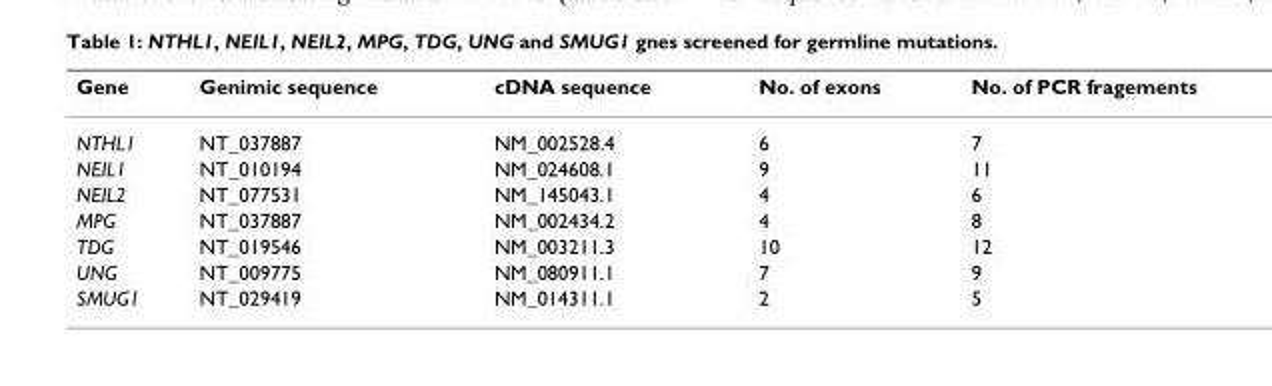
<table><thead><tr><td>Gene</td><td>Genimic sequence</td><td>cDNA sequence</td><td>No. of exons</td><td>No. of PCR fragements</td></tr></thead><tbody><tr><td>NTHL1</td><td>NT_037887</td><td>NM_002528.4</td><td>6</td><td>7</td></tr><tr><td>NEIL1</td><td>NT_010194</td><td>NM_024608.1</td><td>9</td><td>11</td></tr><tr><td>NEIL2</td><td>NT_077531</td><td>NM_145043.1</td><td>4</td><td>6</td></tr><tr><td>MPG</td><td>NT_037887</td><td>NM_002434.2</td><td>4</td><td>8</td></tr><tr><td>TDG</td><td>NT_019546</td><td>NM_003211.3</td><td>10</td><td>12</td></tr><tr><td>UNG</td><td>NT_009775</td><td>NM_080911.1</td><td>7</td><td>9</td></tr><tr><td>SMUG1</td><td>NT_029419</td><td>NM_014311.1</td><td>2</td><td>5</td></tr></tbody></table>